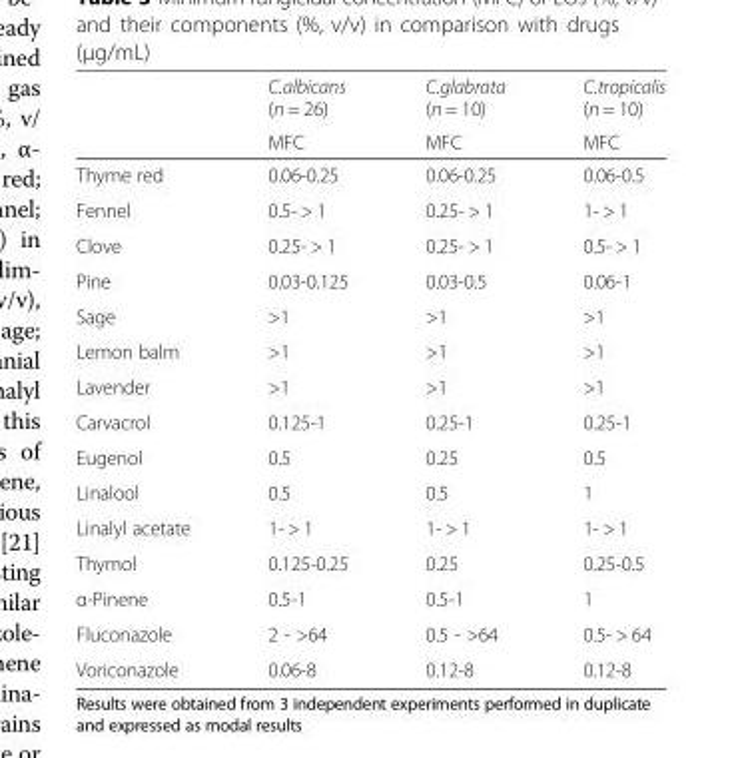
<table><thead><tr><td rowspan="2"></td><td rowspan="2">C.albicans (n = 26) MFC</td><td rowspan="2">C.glabrata (n = 10) MFC</td><td rowspan="2">C.tropicalis (n = 10) MFC</td></tr><tr></tr></thead><tbody><tr><td>Thyme red</td><td>0.06-0.25</td><td>0.06-0.25</td><td>0.06-0.5</td></tr><tr><td>Fennel</td><td>0.5- &gt; 1</td><td>0.25- &gt; 1</td><td>1- &gt; 1</td></tr><tr><td>Clove</td><td>0.25- &gt; 1</td><td>0.25- &gt; 1</td><td>0.5- &gt; 1</td></tr><tr><td>Pine</td><td>0.03-0.125</td><td>0.03-0.5</td><td>0.06-1</td></tr><tr><td>Sage</td><td>&gt;1</td><td>&gt;1</td><td>&gt;1</td></tr><tr><td>Lemon balm</td><td>&gt;1</td><td>&gt;1</td><td>&gt;1</td></tr><tr><td>Lavender</td><td>&gt;1</td><td>&gt;1</td><td>&gt;1</td></tr><tr><td>Carvacrol</td><td>0.125-1</td><td>0.25-1</td><td>0.25-1</td></tr><tr><td>Eugenol</td><td>0.5</td><td>0.25</td><td>0.5</td></tr><tr><td>Linalool</td><td>0.5</td><td>0.5</td><td>1</td></tr><tr><td>Linalyl acetate</td><td>1- &gt; 1</td><td>1- &gt; 1</td><td>1- &gt; 1</td></tr><tr><td>Thymol</td><td>0.125-0.25</td><td>0.25</td><td>0.25-0.5</td></tr><tr><td>α-Pinene</td><td>0.5-1</td><td>0.5-1</td><td>1</td></tr><tr><td>Fluconazole</td><td>2 - &gt;64</td><td>0.5 - &gt;64</td><td>0.5- &gt; 64</td></tr><tr><td>Voriconazole</td><td>0.06-8</td><td>0.12-8</td><td>0.12-8</td></tr></tbody></table>